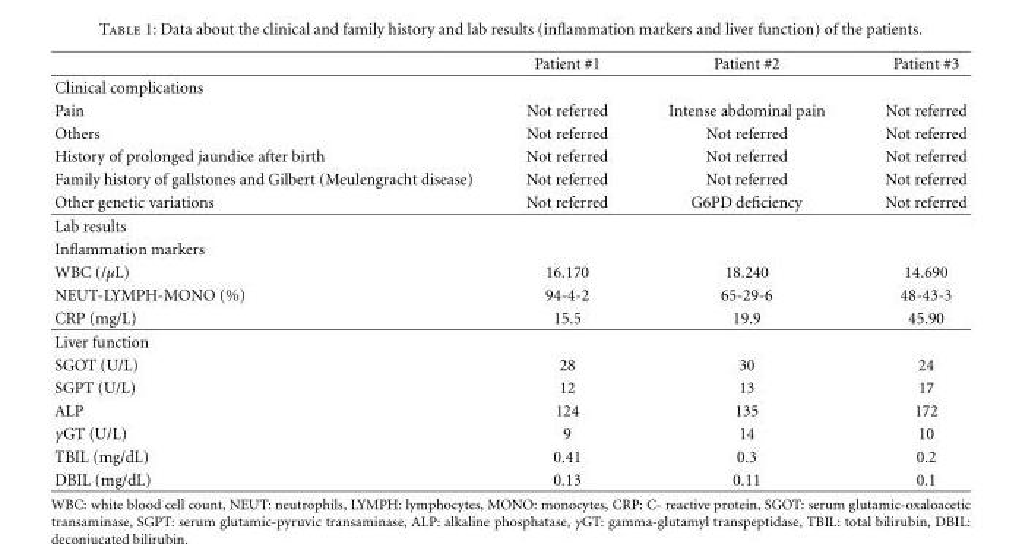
<table><thead><tr><td></td><td>Patient #1</td><td>Patient #2</td><td>Patient #3</td></tr></thead><tbody><tr><td colspan="4">Clinical complications</td></tr><tr><td>Pain</td><td>Not referred</td><td>Intense abdominal pain</td><td>Not referred</td></tr><tr><td>Others</td><td>Not referred</td><td>Not referred</td><td>Not referred</td></tr><tr><td>History of prolonged jaundice after birth</td><td>Not referred</td><td>Not referred</td><td>Not referred</td></tr><tr><td>Family history of gallstones and Gilbert (Meulengracht disease)</td><td>Not referred</td><td>Not referred</td><td>Not referred</td></tr><tr><td>Other genetic variations</td><td>Not referred</td><td>G6PD deficiency</td><td>Not referred</td></tr><tr><td colspan="4">Lab results</td></tr><tr><td colspan="4">Inflammation markers</td></tr><tr><td>WBC (/μL)</td><td>16.170</td><td>18.240</td><td>14.690</td></tr><tr><td>NEUT-LYMPH-MONO (%)</td><td>94-4-2</td><td>65-29-6</td><td>48-43-3</td></tr><tr><td>CRP (mg/L)</td><td>15.5</td><td>19.9</td><td>45.90</td></tr><tr><td colspan="4">Liver function</td></tr><tr><td>SGOT (U/L)</td><td>28</td><td>30</td><td>24</td></tr><tr><td>SGPT (U/L)</td><td>12</td><td>13</td><td>17</td></tr><tr><td>ALP</td><td>124</td><td>135</td><td>172</td></tr><tr><td>γGT (U/L)</td><td>9</td><td>14</td><td>10</td></tr><tr><td>TBIL (mg/dL)</td><td>0.41</td><td>0.3</td><td>0.2</td></tr><tr><td>DBIL (mg/dL)</td><td>0.13</td><td>0.11</td><td>0.1</td></tr></tbody></table>